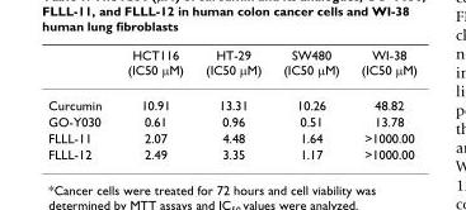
<table><thead><tr><td></td><td>HCT116 (IC50 μM)</td><td>HT-29 (IC50 μM)</td><td>SW480 (IC50 μM)</td><td>WI-38 (IC50 μM)</td></tr></thead><tbody><tr><td>Curcumin</td><td>10.91</td><td>13.31</td><td>10.26</td><td>48.82</td></tr><tr><td>GO-Y030</td><td>0.61</td><td>0.96</td><td>0.51</td><td>13.78</td></tr><tr><td>FLLL-11</td><td>2.07</td><td>4.48</td><td>1.64</td><td>&gt;1000.00</td></tr><tr><td>FLLL-12</td><td>2.49</td><td>3.35</td><td>1.17</td><td>&gt;1000.00</td></tr></tbody></table>